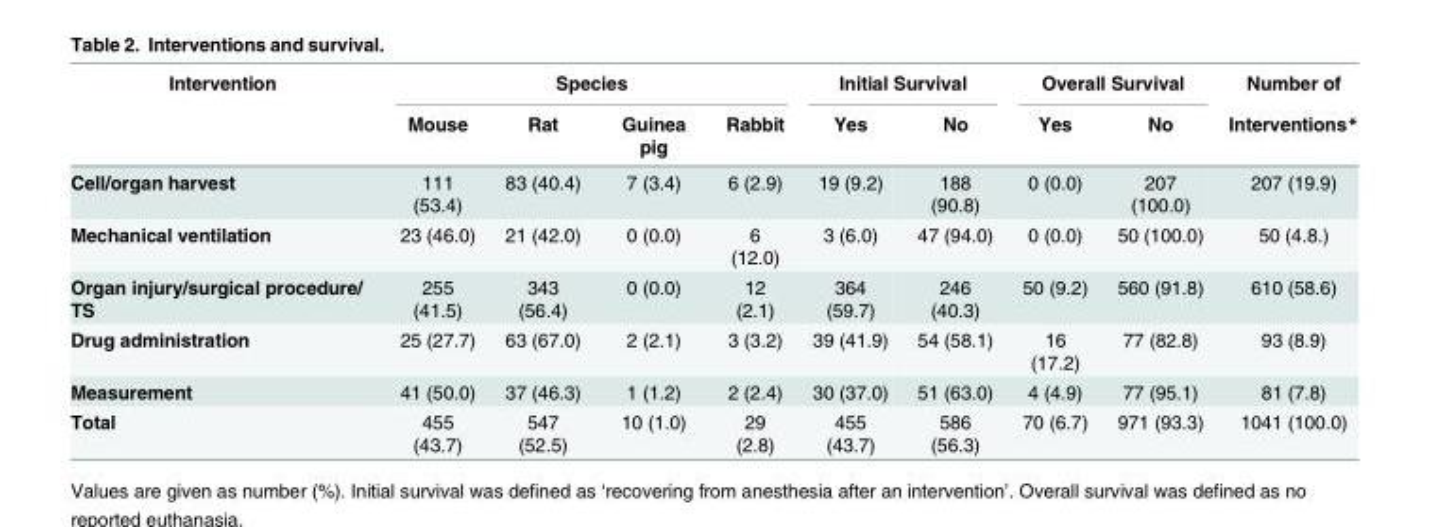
<table><thead><tr><td rowspan="2">Intervention</td><td colspan="4">Species</td><td colspan="2">Initial Survival</td><td colspan="2">Overall Survival</td><td rowspan="2">Number of Interventions*</td></tr><tr><td>Mouse</td><td>Rat</td><td>Guinea pig</td><td>Rabbit</td><td>Yes</td><td>No</td><td>Yes</td><td>No</td></tr></thead><tbody><tr><td>Cell/organ harvest</td><td>111 (53.4)</td><td>83 (40.4)</td><td>7 (3.4)</td><td>6 (2.9)</td><td>19 (9.2)</td><td>188 (90.8)</td><td>0 (0.0)</td><td>207 (100.0)</td><td>207 (19.9)</td></tr><tr><td>Mechanical ventilation</td><td>23 (46.0)</td><td>21 (42.0)</td><td>0 (0.0)</td><td>6 (12.0)</td><td>3 (6.0)</td><td>47 (94.0)</td><td>0 (0.0)</td><td>50 (100.0)</td><td>50 (4.8.)</td></tr><tr><td>Organ injury/surgical procedure/ TS</td><td>255 (41.5)</td><td>343 (56.4)</td><td>0 (0.0)</td><td>12 (2.1)</td><td>364 (59.7)</td><td>246 (40.3)</td><td>50 (9.2)</td><td>560 (91.8)</td><td>610 (58.6)</td></tr><tr><td>Drug administration</td><td>25 (27.7)</td><td>63 (67.0)</td><td>2 (2.1)</td><td>3 (3.2)</td><td>39 (41.9)</td><td>54 (58.1)</td><td>16 (17.2)</td><td>77 (82.8)</td><td>93 (8.9)</td></tr><tr><td>Measurement</td><td>41 (50.0)</td><td>37 (46.3)</td><td>1 (1.2)</td><td>2 (2.4)</td><td>30 (37.0)</td><td>51 (63.0)</td><td>4 (4.9)</td><td>77 (95.1)</td><td>81 (7.8)</td></tr><tr><td>Total</td><td>455 (43.7)</td><td>547 (52.5)</td><td>10 (1.0)</td><td>29 (2.8)</td><td>455 (43.7)</td><td>586 (56.3)</td><td>70 (6.7)</td><td>971 (93.3)</td><td>1041 (100.0)</td></tr></tbody></table>